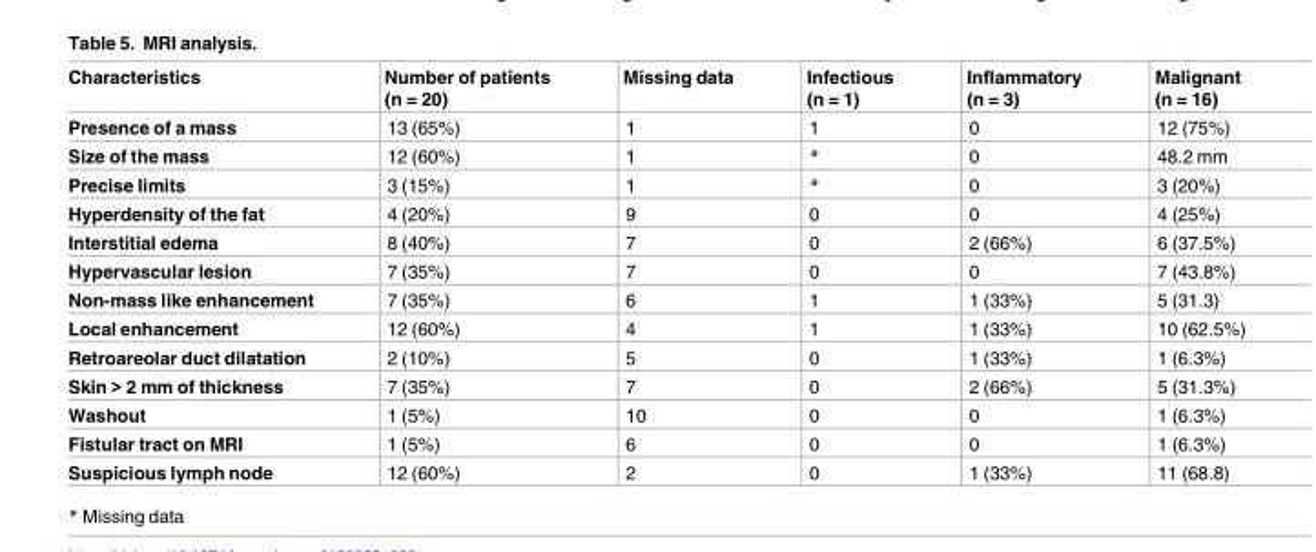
<table><thead><tr><td>Characteristics</td><td>Number of patients (n = 20)</td><td>Missing data</td><td>Infectious (n = 1)</td><td>Inflammatory (n = 3)</td><td>Malignant (n = 16)</td></tr></thead><tbody><tr><td>Presence of a mass</td><td>13 (65%)</td><td>1</td><td>1</td><td>0</td><td>12 (75%)</td></tr><tr><td>Size of the mass</td><td>12 (60%)</td><td>1</td><td>*</td><td>0</td><td>48.2 mm</td></tr><tr><td>Precise limits</td><td>3 (15%)</td><td>1</td><td>*</td><td>0</td><td>3 (20%)</td></tr><tr><td>Hyperdensity of the fat</td><td>4 (20%)</td><td>9</td><td>0</td><td>0</td><td>4 (25%)</td></tr><tr><td>Interstitial edema</td><td>8 (40%)</td><td>7</td><td>0</td><td>2 (66%)</td><td>6 (37.5%)</td></tr><tr><td>Hypervascular lesion</td><td>7 (35%)</td><td>7</td><td>0</td><td>0</td><td>7 (43.8%)</td></tr><tr><td>Non-mass like enhancement</td><td>7 (35%)</td><td>6</td><td>1</td><td>1 (33%)</td><td>5 (31.3)</td></tr><tr><td>Local enhancement</td><td>12 (60%)</td><td>4</td><td>1</td><td>1 (33%)</td><td>10 (62.5%)</td></tr><tr><td>Retroareolar duct dilatation</td><td>2 (10%)</td><td>5</td><td>0</td><td>1 (33%)</td><td>1 (6.3%)</td></tr><tr><td>Skin &gt; 2 mm of thickness</td><td>7 (35%)</td><td>7</td><td>0</td><td>2 (66%)</td><td>5 (31.3%)</td></tr><tr><td>Washout</td><td>1 (5%)</td><td>10</td><td>0</td><td>0</td><td>1 (6.3%)</td></tr><tr><td>Fistular tract on MRI</td><td>1 (5%)</td><td>6</td><td>0</td><td>0</td><td>1 (6.3%)</td></tr><tr><td>Suspicious lymph node</td><td>12 (60%)</td><td>2</td><td>0</td><td>1 (33%)</td><td>11 (68.8)</td></tr></tbody></table>